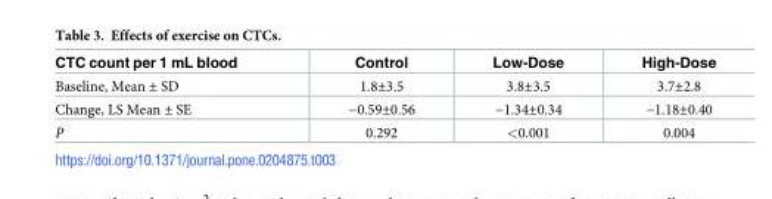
<table><thead><tr><td>CTC count per 1 mL blood</td><td>Control</td><td>Low-Dose</td><td>High-Dose</td></tr></thead><tbody><tr><td>Baseline, Mean ± SD</td><td>1.8±3.5</td><td>3.8±3.5</td><td>3.7±2.8</td></tr><tr><td>Change, LS Mean ± SE</td><td>−0.59±0.56</td><td>−1.34±0.34</td><td>−1.18±0.40</td></tr><tr><td>P</td><td>0.292</td><td>&lt;0.001</td><td>0.004</td></tr></tbody></table>